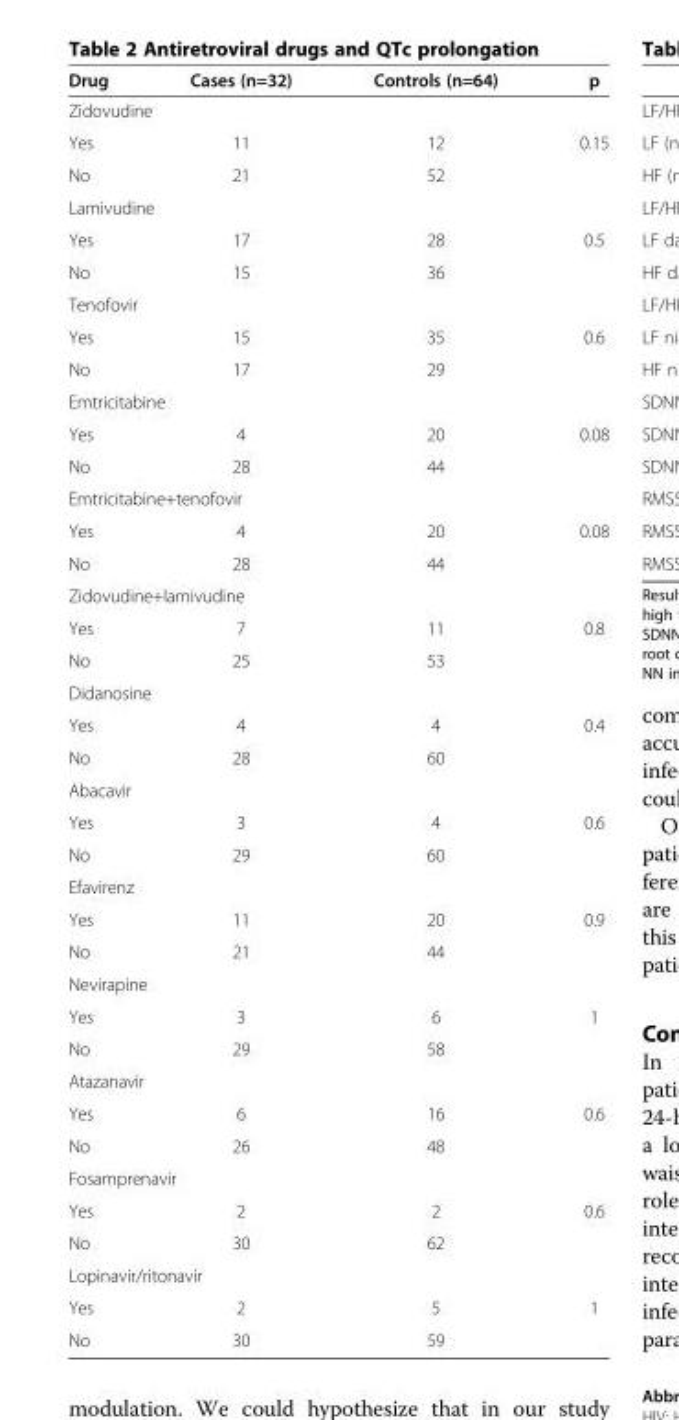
<table><thead><tr><td>Drug</td><td>Cases (n=32)</td><td>Controls (n=64)</td><td>p</td></tr></thead><tbody><tr><td colspan="4">Zidovudine</td></tr><tr><td>Yes</td><td>11</td><td>12</td><td>0.15</td></tr><tr><td>No</td><td>21</td><td>52</td><td></td></tr><tr><td colspan="4">Lamivudine</td></tr><tr><td>Yes</td><td>17</td><td>28</td><td>0.5</td></tr><tr><td>No</td><td>15</td><td>36</td><td></td></tr><tr><td colspan="4">Tenofovir</td></tr><tr><td>Yes</td><td>15</td><td>35</td><td>0.6</td></tr><tr><td>No</td><td>17</td><td>29</td><td></td></tr><tr><td colspan="4">Emtricitabine</td></tr><tr><td>Yes</td><td>4</td><td>20</td><td>0.08</td></tr><tr><td>No</td><td>28</td><td>44</td><td></td></tr><tr><td colspan="4">Emtricitabine+tenofovir</td></tr><tr><td>Yes</td><td>4</td><td>20</td><td>0.08</td></tr><tr><td>No</td><td>28</td><td>44</td><td></td></tr><tr><td colspan="4">Zidovudine+lamivudine</td></tr><tr><td>Yes</td><td>7</td><td>11</td><td>0.8</td></tr><tr><td>No</td><td>25</td><td>53</td><td></td></tr><tr><td colspan="4">Didanosine</td></tr><tr><td>Yes</td><td>4</td><td>4</td><td>0.4</td></tr><tr><td>No</td><td>28</td><td>60</td><td></td></tr><tr><td colspan="4">Abacavir</td></tr><tr><td>Yes</td><td>3</td><td>4</td><td>0.6</td></tr><tr><td>No</td><td>29</td><td>60</td><td></td></tr><tr><td colspan="4">Efavirenz</td></tr><tr><td>Yes</td><td>11</td><td>20</td><td>0.9</td></tr><tr><td>No</td><td>21</td><td>44</td><td></td></tr><tr><td colspan="4">Nevirapine</td></tr><tr><td>Yes</td><td>3</td><td>6</td><td>1</td></tr><tr><td>No</td><td>29</td><td>58</td><td></td></tr><tr><td colspan="4">Atazanavir</td></tr><tr><td>Yes</td><td>6</td><td>16</td><td>0.6</td></tr><tr><td>No</td><td>26</td><td>48</td><td></td></tr><tr><td colspan="4">Fosamprenavir</td></tr><tr><td>Yes</td><td>2</td><td>2</td><td>0.6</td></tr><tr><td>No</td><td>30</td><td>62</td><td></td></tr><tr><td colspan="4">Lopinavir/ritonavir</td></tr><tr><td>Yes</td><td>2</td><td>5</td><td>1</td></tr><tr><td>No</td><td>30</td><td>59</td><td></td></tr></tbody></table>